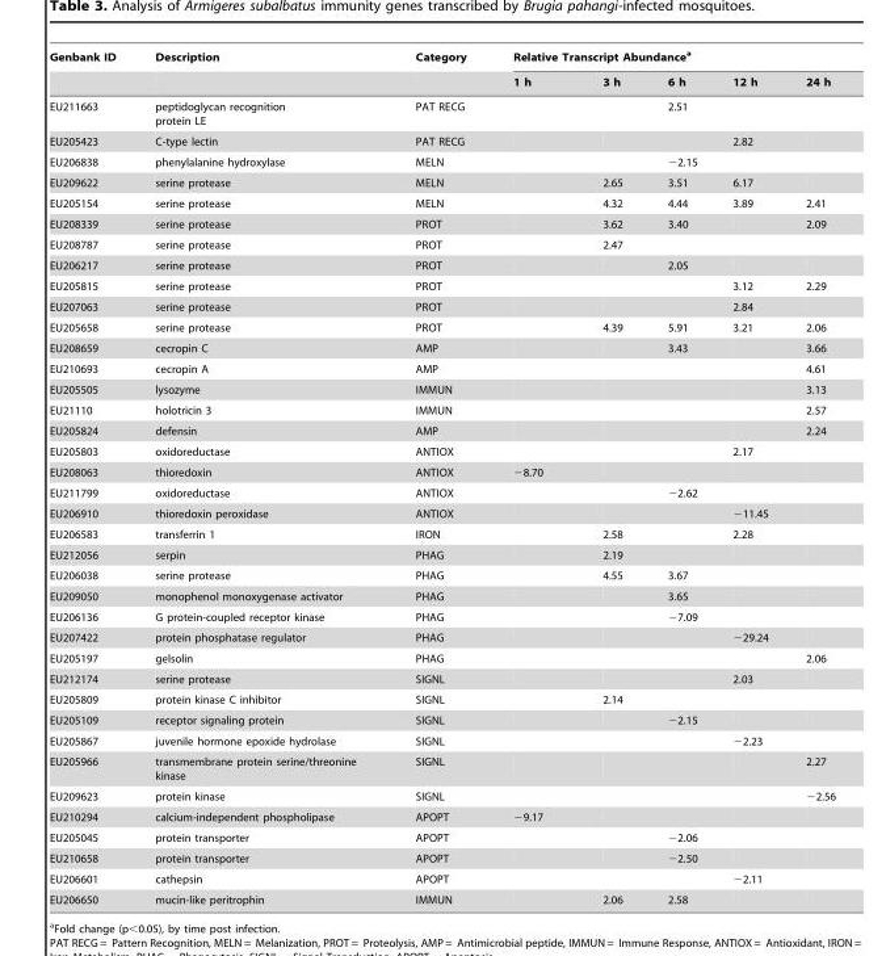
<table><thead><tr><td rowspan="2">Genbank ID</td><td rowspan="2">Description</td><td rowspan="2">Category</td><td colspan="5">Relative Transcript Abundance<sup>a</sup></td></tr><tr><td>1 h</td><td>3 h</td><td>6 h</td><td>12 h</td><td>24 h</td></tr></thead><tbody><tr><td>EU211663</td><td>peptidoglycan recognition protein LE</td><td>PAT RECG</td><td></td><td></td><td>2.51</td><td></td><td></td></tr><tr><td>EU205423</td><td>C-type lectin</td><td>PAT RECG</td><td></td><td></td><td></td><td>2.82</td><td></td></tr><tr><td>EU206838</td><td>phenylalanine hydroxylase</td><td>MELN</td><td></td><td></td><td>−2.15</td><td></td><td></td></tr><tr><td>EU209622</td><td>serine protease</td><td>MELN</td><td></td><td>2.65</td><td>3.51</td><td>6.17</td><td></td></tr><tr><td>EU205154</td><td>serine protease</td><td>MELN</td><td></td><td>4.32</td><td>4.44</td><td>3.89</td><td>2.41</td></tr><tr><td>EU208339</td><td>serine protease</td><td>PROT</td><td></td><td>3.62</td><td>3.40</td><td></td><td>2.09</td></tr><tr><td>EU208787</td><td>serine protease</td><td>PROT</td><td></td><td>2.47</td><td></td><td></td><td></td></tr><tr><td>EU206217</td><td>serine protease</td><td>PROT</td><td></td><td></td><td>2.05</td><td></td><td></td></tr><tr><td>EU205815</td><td>serine protease</td><td>PROT</td><td></td><td></td><td></td><td>3.12</td><td>2.29</td></tr><tr><td>EU207063</td><td>serine protease</td><td>PROT</td><td></td><td></td><td></td><td>2.84</td><td></td></tr><tr><td>EU205658</td><td>serine protease</td><td>PROT</td><td></td><td>4.39</td><td>5.91</td><td>3.21</td><td>2.06</td></tr><tr><td>EU208659</td><td>cecropin C</td><td>AMP</td><td></td><td></td><td>3.43</td><td></td><td>3.66</td></tr><tr><td>EU210693</td><td>cecropin A</td><td>AMP</td><td></td><td></td><td></td><td></td><td>4.61</td></tr><tr><td>EU205505</td><td>lysozyme</td><td>IMMUN</td><td></td><td></td><td></td><td></td><td>3.13</td></tr><tr><td>EU21110</td><td>holotricin 3</td><td>IMMUN</td><td></td><td></td><td></td><td></td><td>2.57</td></tr><tr><td>EU205824</td><td>defensin</td><td>AMP</td><td></td><td></td><td></td><td></td><td>2.24</td></tr><tr><td>EU205803</td><td>oxidoreductase</td><td>ANTIOX</td><td></td><td></td><td></td><td>2.17</td><td></td></tr><tr><td>EU208063</td><td>thioredoxin</td><td>ANTIOX</td><td>−8.70</td><td></td><td></td><td></td><td></td></tr><tr><td>EU211799</td><td>oxidoreductase</td><td>ANTIOX</td><td></td><td></td><td>−2.62</td><td></td><td></td></tr><tr><td>EU206910</td><td>thioredoxin peroxidase</td><td>ANTIOX</td><td></td><td></td><td></td><td>−11.45</td><td></td></tr><tr><td>EU206583</td><td>transferrin 1</td><td>IRON</td><td></td><td>2.58</td><td></td><td>2.28</td><td></td></tr><tr><td>EU212056</td><td>serpin</td><td>PHAG</td><td></td><td>2.19</td><td></td><td></td><td></td></tr><tr><td>EU206038</td><td>serine protease</td><td>PHAG</td><td></td><td>4.55</td><td>3.67</td><td></td><td></td></tr><tr><td>EU209050</td><td>monophenol monoxygenase activator</td><td>PHAG</td><td></td><td></td><td>3.65</td><td></td><td></td></tr><tr><td>EU206136</td><td>G protein-coupled receptor kinase</td><td>PHAG</td><td></td><td></td><td>−7.09</td><td></td><td></td></tr><tr><td>EU207422</td><td>protein phosphatase regulator</td><td>PHAG</td><td></td><td></td><td></td><td>−29.24</td><td></td></tr><tr><td>EU205197</td><td>gelsolin</td><td>PHAG</td><td></td><td></td><td></td><td></td><td>2.06</td></tr><tr><td>EU212174</td><td>serine protease</td><td>SIGNL</td><td></td><td></td><td></td><td>2.03</td><td></td></tr><tr><td>EU205809</td><td>protein kinase C inhibitor</td><td>SIGNL</td><td></td><td>2.14</td><td></td><td></td><td></td></tr><tr><td>EU205109</td><td>receptor signaling protein</td><td>SIGNL</td><td></td><td></td><td>−2.15</td><td></td><td></td></tr><tr><td>EU205867</td><td>juvenile hormone epoxide hydrolase</td><td>SIGNL</td><td></td><td></td><td></td><td>−2.23</td><td></td></tr><tr><td>EU205966</td><td>transmembrane protein serine/threonine kinase</td><td>SIGNL</td><td></td><td></td><td></td><td></td><td>2.27</td></tr><tr><td>EU209623</td><td>protein kinase</td><td>SIGNL</td><td></td><td></td><td></td><td></td><td>−2.56</td></tr><tr><td>EU210294</td><td>calcium-independent phospholipase</td><td>APOPT</td><td>−9.17</td><td></td><td></td><td></td><td></td></tr><tr><td>EU205045</td><td>protein transporter</td><td>APOPT</td><td></td><td></td><td>−2.06</td><td></td><td></td></tr><tr><td>EU210658</td><td>protein transporter</td><td>APOPT</td><td></td><td></td><td>−2.50</td><td></td><td></td></tr><tr><td>EU206601</td><td>cathepsin</td><td>APOPT</td><td></td><td></td><td></td><td>−2.11</td><td></td></tr><tr><td>EU206650</td><td>mucin-like peritrophin</td><td>IMMUN</td><td></td><td>2.06</td><td>2.58</td><td></td><td></td></tr></tbody></table>